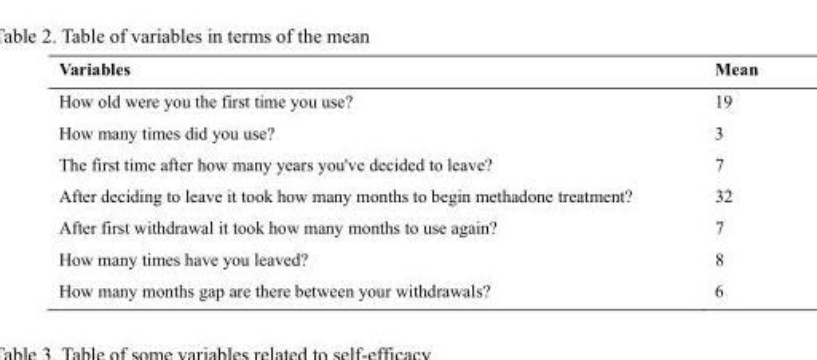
<table><thead><tr><td>Variables</td><td>Mean</td></tr></thead><tbody><tr><td>How old were you the first time you use?</td><td>19</td></tr><tr><td>How many times did you use?</td><td>3</td></tr><tr><td>The first time after how many years you&#x27;ve decided to leave?</td><td>7</td></tr><tr><td>After deciding to leave it took how many months to begin methadone treatment?</td><td>32</td></tr><tr><td>After first withdrawal it took how many months to use again?</td><td>7</td></tr><tr><td>How many times have you leaved?</td><td>8</td></tr><tr><td>How many months gap are there between your withdrawals?</td><td>6</td></tr></tbody></table>